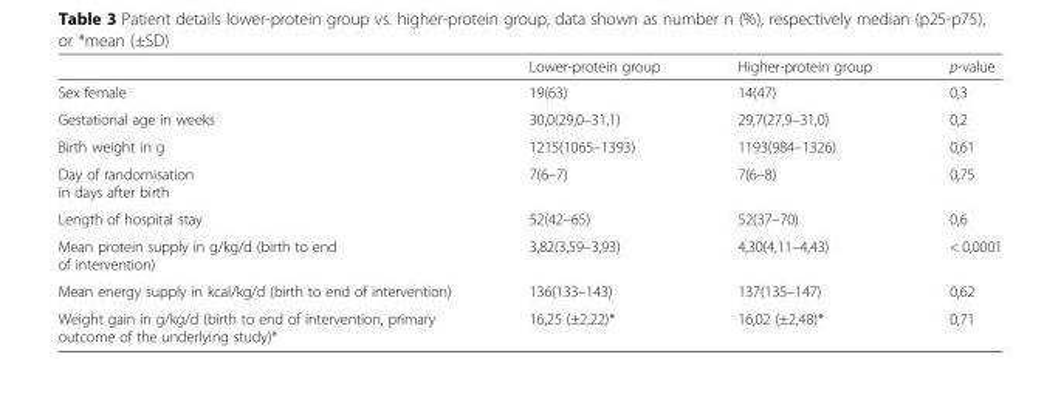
<table><thead><tr><td></td><td>Lower-protein group</td><td>Higher-protein group</td><td>p-value</td></tr></thead><tbody><tr><td>Sex female</td><td>19(63)</td><td>14(47)</td><td>0,3</td></tr><tr><td>Gestational age in weeks</td><td>30,0(29,0–31,1)</td><td>29,7(27,9–31,0)</td><td>0,2</td></tr><tr><td>Birth weight in g</td><td>1215(1065–1393)</td><td>1193(984–1326)</td><td>0,61</td></tr><tr><td>Day of randomisation in days after birth</td><td>7(6–7)</td><td>7(6–8)</td><td>0,75</td></tr><tr><td>Length of hospital stay</td><td>52(42–65)</td><td>52(37–70)</td><td>0,6</td></tr><tr><td>Mean protein supply in g/kg/d (birth to end of intervention)</td><td>3,82(3,59–3,93)</td><td>4,30(4,11–4,43)</td><td>&lt; 0,0001</td></tr><tr><td>Mean energy supply in kcal/kg/d (birth to end of intervention)</td><td>136(133–143)</td><td>137(135–147)</td><td>0,62</td></tr><tr><td>Weight gain in g/kg/d (birth to end of intervention, primary outcome of the underlying study)*</td><td>16,25 (±2,22)*</td><td>16,02 (±2,48)*</td><td>0,71</td></tr></tbody></table>